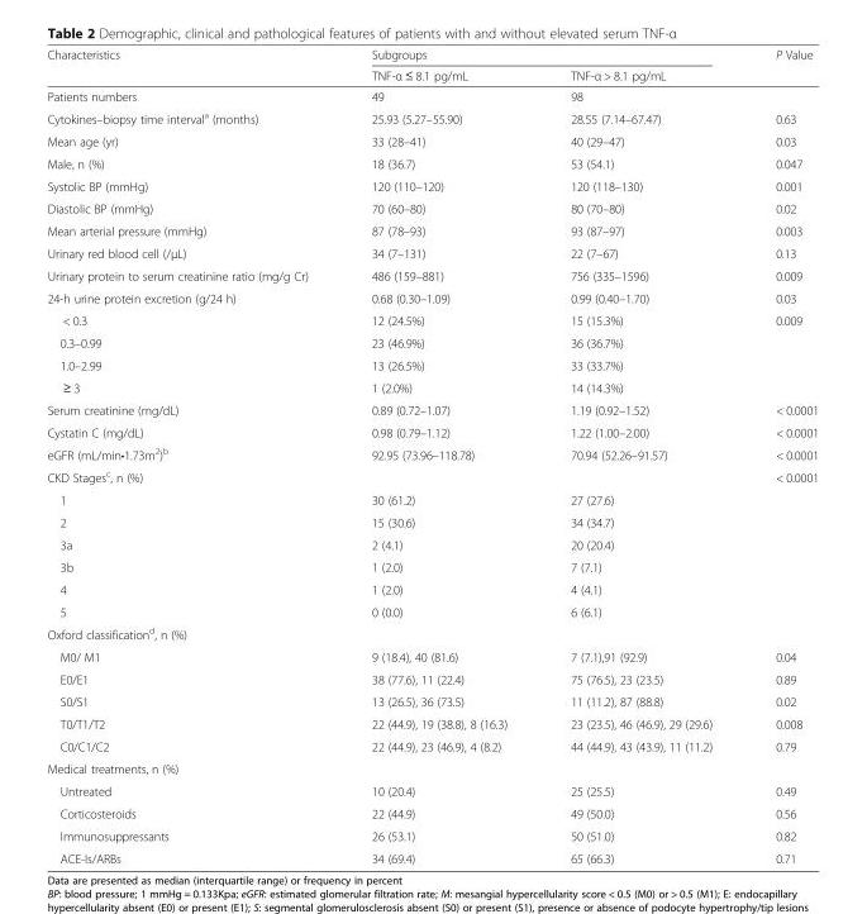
<table><thead><tr><td rowspan="2">Characteristics</td><td colspan="2">Subgroups</td><td rowspan="2">P Value</td></tr><tr><td>TNF-α ≤ 8.1 pg/mL</td><td>TNF-α &gt; 8.1 pg/mL</td></tr></thead><tbody><tr><td>Patients numbers</td><td>49</td><td>98</td><td></td></tr><tr><td>Cytokines–biopsy time interval<sup>a</sup> (months)</td><td>25.93 (5.27–55.90)</td><td>28.55 (7.14–67.47)</td><td>0.63</td></tr><tr><td>Mean age (yr)</td><td>33 (28–41)</td><td>40 (29–47)</td><td>0.03</td></tr><tr><td>Male, n (%)</td><td>18 (36.7)</td><td>53 (54.1)</td><td>0.047</td></tr><tr><td>Systolic BP (mmHg)</td><td>120 (110–120)</td><td>120 (118–130)</td><td>0.001</td></tr><tr><td>Diastolic BP (mmHg)</td><td>70 (60–80)</td><td>80 (70–80)</td><td>0.02</td></tr><tr><td>Mean arterial pressure (mmHg)</td><td>87 (78–93)</td><td>93 (87–97)</td><td>0.003</td></tr><tr><td>Urinary red blood cell (/μL)</td><td>34 (7–131)</td><td>22 (7–67)</td><td>0.13</td></tr><tr><td>Urinary protein to serum creatinine ratio (mg/g Cr)</td><td>486 (159–881)</td><td>756 (335–1596)</td><td>0.009</td></tr><tr><td>24-h urine protein excretion (g/24 h)</td><td>0.68 (0.30–1.09)</td><td>0.99 (0.40–1.70)</td><td>0.03</td></tr><tr><td>&lt; 0.3</td><td>12 (24.5%)</td><td>15 (15.3%)</td><td>0.009</td></tr><tr><td>0.3–0.99</td><td>23 (46.9%)</td><td>36 (36.7%)</td><td></td></tr><tr><td>1.0–2.99</td><td>13 (26.5%)</td><td>33 (33.7%)</td><td></td></tr><tr><td>≥ 3</td><td>1 (2.0%)</td><td>14 (14.3%)</td><td></td></tr><tr><td>Serum creatinine (mg/dL)</td><td>0.89 (0.72–1.07)</td><td>1.19 (0.92–1.52)</td><td>&lt; 0.0001</td></tr><tr><td>Cystatin C (mg/dL)</td><td>0.98 (0.79–1.12)</td><td>1.22 (1.00–2.00)</td><td>&lt; 0.0001</td></tr><tr><td>eGFR (mL/min•1.73m<sup>2</sup>)<sup>b</sup></td><td>92.95 (73.96–118.78)</td><td>70.94 (52.26–91.57)</td><td>&lt; 0.0001</td></tr><tr><td colspan="3">CKD Stages<sup>c</sup>, n (%)</td><td>&lt; 0.0001</td></tr><tr><td>1</td><td>30 (61.2)</td><td>27 (27.6)</td><td></td></tr><tr><td>2</td><td>15 (30.6)</td><td>34 (34.7)</td><td></td></tr><tr><td>3a</td><td>2 (4.1)</td><td>20 (20.4)</td><td></td></tr><tr><td>3b</td><td>1 (2.0)</td><td>7 (7.1)</td><td></td></tr><tr><td>4</td><td>1 (2.0)</td><td>4 (4.1)</td><td></td></tr><tr><td>5</td><td>0 (0.0)</td><td>6 (6.1)</td><td></td></tr><tr><td colspan="4">Oxford classification<sup>d</sup>, n (%)</td></tr><tr><td>M0/ M1</td><td>9 (18.4), 40 (81.6)</td><td>7 (7.1),91 (92.9)</td><td>0.04</td></tr><tr><td>E0/E1</td><td>38 (77.6), 11 (22.4)</td><td>75 (76.5), 23 (23.5)</td><td>0.89</td></tr><tr><td>S0/S1</td><td>13 (26.5), 36 (73.5)</td><td>11 (11.2), 87 (88.8)</td><td>0.02</td></tr><tr><td>T0/T1/T2</td><td>22 (44.9), 19 (38.8), 8 (16.3)</td><td>23 (23.5), 46 (46.9), 29 (29.6)</td><td>0.008</td></tr><tr><td>C0/C1/C2</td><td>22 (44.9), 23 (46.9), 4 (8.2)</td><td>44 (44.9), 43 (43.9), 11 (11.2)</td><td>0.79</td></tr><tr><td colspan="4">Medical treatments, n (%)</td></tr><tr><td>Untreated</td><td>10 (20.4)</td><td>25 (25.5)</td><td>0.49</td></tr><tr><td>Corticosteroids</td><td>22 (44.9)</td><td>49 (50.0)</td><td>0.56</td></tr><tr><td>Immunosuppressants</td><td>26 (53.1)</td><td>50 (51.0)</td><td>0.82</td></tr><tr><td>ACE-Is/ARBs</td><td>34 (69.4)</td><td>65 (66.3)</td><td>0.71</td></tr></tbody></table>